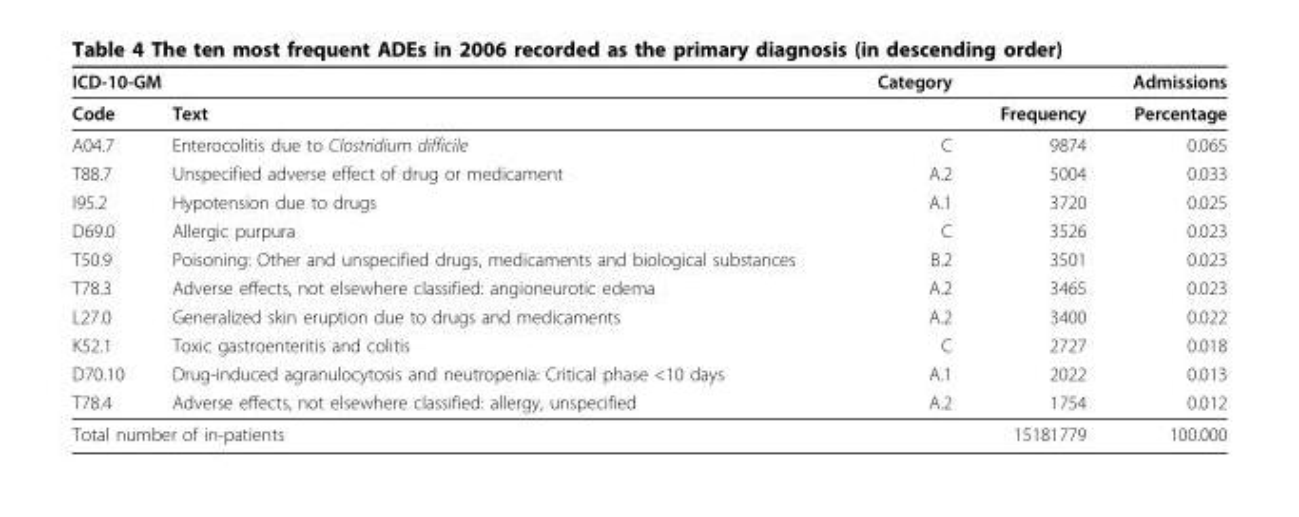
<table><thead><tr><td colspan="2">ICD-10-GM</td><td rowspan="2">Category</td><td colspan="2">Admissions</td></tr><tr><td>Code</td><td>Text</td><td>Frequency</td><td>Percentage</td></tr></thead><tbody><tr><td>A04.7</td><td>Enterocolitis due to Clostridium difficile</td><td>C</td><td>9874</td><td>0.065</td></tr><tr><td>T88.7</td><td>Unspecified adverse effect of drug or medicament</td><td>A.2</td><td>5004</td><td>0.033</td></tr><tr><td>I95.2</td><td>Hypotension due to drugs</td><td>A.1</td><td>3720</td><td>0.025</td></tr><tr><td>D69.0</td><td>Allergic purpura</td><td>C</td><td>3526</td><td>0.023</td></tr><tr><td>T50.9</td><td>Poisoning: Other and unspecified drugs, medicaments and biological substances</td><td>B.2</td><td>3501</td><td>0.023</td></tr><tr><td>T78.3</td><td>Adverse effects, not elsewhere classified: angioneurotic edema</td><td>A.2</td><td>3465</td><td>0.023</td></tr><tr><td>L27.0</td><td>Generalized skin eruption due to drugs and medicaments</td><td>A.2</td><td>3400</td><td>0.022</td></tr><tr><td>K52.1</td><td>Toxic gastroenteritis and colitis</td><td>C</td><td>2727</td><td>0.018</td></tr><tr><td>D70.10</td><td>Drug-induced agranulocytosis and neutropenia: Critical phase &lt;10 days</td><td>A.1</td><td>2022</td><td>0.013</td></tr><tr><td>T78.4</td><td>Adverse effects, not elsewhere classified: allergy, unspecified</td><td>A.2</td><td>1754</td><td>0.012</td></tr><tr><td colspan="2">Total number of in-patients</td><td></td><td>15181779</td><td>100.000</td></tr></tbody></table>